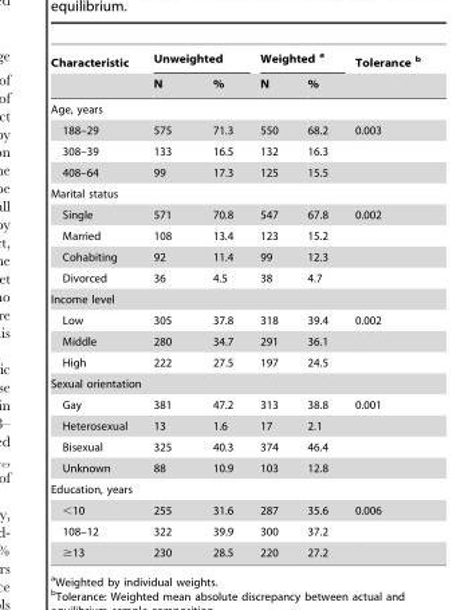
<table><thead><tr><td rowspan="2">Characteristic</td><td colspan="2">Unweighted</td><td colspan="2">Weighted a</td><td rowspan="2">Tolerance b</td></tr><tr><td>N</td><td>%</td><td>N</td><td>%</td></tr></thead><tbody><tr><td colspan="6">Age, years</td></tr><tr><td>188–29</td><td>575</td><td>71.3</td><td>550</td><td>68.2</td><td>0.003</td></tr><tr><td>308–39</td><td>133</td><td>16.5</td><td>132</td><td>16.3</td><td></td></tr><tr><td>408–64</td><td>99</td><td>17.3</td><td>125</td><td>15.5</td><td></td></tr><tr><td colspan="6">Marital status</td></tr><tr><td>Single</td><td>571</td><td>70.8</td><td>547</td><td>67.8</td><td>0.002</td></tr><tr><td>Married</td><td>108</td><td>13.4</td><td>123</td><td>15.2</td><td></td></tr><tr><td>Cohabiting</td><td>92</td><td>11.4</td><td>99</td><td>12.3</td><td></td></tr><tr><td>Divorced</td><td>36</td><td>4.5</td><td>38</td><td>4.7</td><td></td></tr><tr><td colspan="6">Income level</td></tr><tr><td>Low</td><td>305</td><td>37.8</td><td>318</td><td>39.4</td><td>0.002</td></tr><tr><td>Middle</td><td>280</td><td>34.7</td><td>291</td><td>36.1</td><td></td></tr><tr><td>High</td><td>222</td><td>27.5</td><td>197</td><td>24.5</td><td></td></tr><tr><td colspan="6">Sexual orientation</td></tr><tr><td>Gay</td><td>381</td><td>47.2</td><td>313</td><td>38.8</td><td>0.001</td></tr><tr><td>Heterosexual</td><td>13</td><td>1.6</td><td>17</td><td>2.1</td><td></td></tr><tr><td>Bisexual</td><td>325</td><td>40.3</td><td>374</td><td>46.4</td><td></td></tr><tr><td>Unknown</td><td>88</td><td>10.9</td><td>103</td><td>12.8</td><td></td></tr><tr><td colspan="6">Education, years</td></tr><tr><td>&lt;10</td><td>255</td><td>31.6</td><td>287</td><td>35.6</td><td>0.006</td></tr><tr><td>108–12</td><td>322</td><td>39.9</td><td>300</td><td>37.2</td><td></td></tr><tr><td>≥13</td><td>230</td><td>28.5</td><td>220</td><td>27.2</td><td></td></tr></tbody></table>